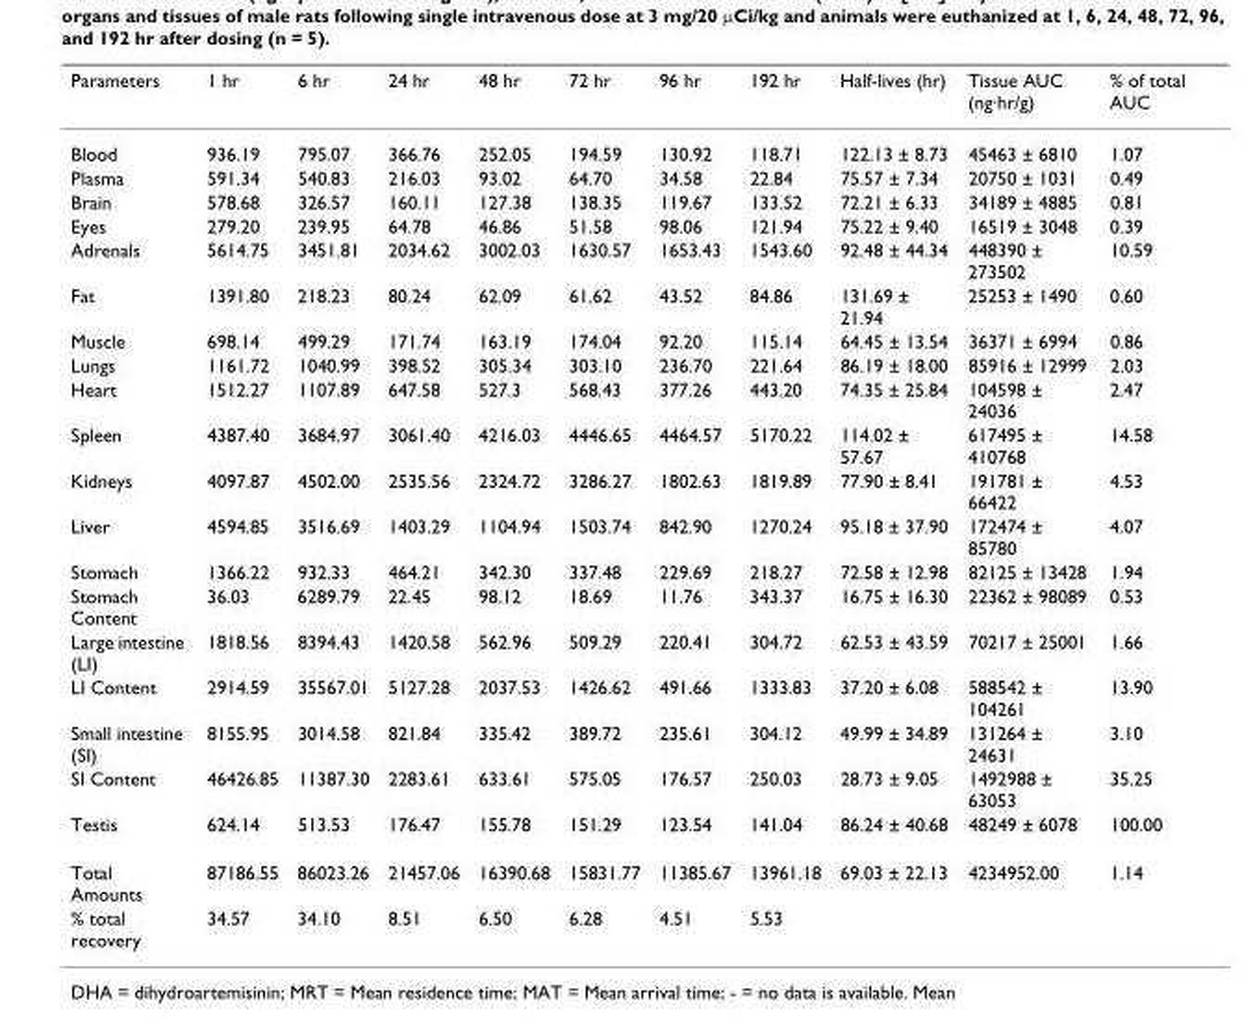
<table><thead><tr><td>Parameters</td><td>1 hr</td><td>6 hr</td><td>24 hr</td><td>48 hr</td><td>72 hr</td><td>96 hr</td><td>192 hr</td><td>Half-lives (hr)</td><td>Tissue AUC (ng·hr/g)</td><td>% of total AUC</td></tr></thead><tbody><tr><td>Blood</td><td>936.19</td><td>795.07</td><td>366.76</td><td>252.05</td><td>194.59</td><td>130.92</td><td>118.71</td><td>122.13 ± 8.73</td><td>45463 ± 6810</td><td>1.07</td></tr><tr><td>Plasma</td><td>591.34</td><td>540.83</td><td>216.03</td><td>93.02</td><td>64.70</td><td>34.58</td><td>22.84</td><td>75.57 ± 7.34</td><td>20750 ± 1031</td><td>0.49</td></tr><tr><td>Brain</td><td>578.68</td><td>326.57</td><td>160.11</td><td>127.38</td><td>138.35</td><td>119.67</td><td>133.52</td><td>72.21 ± 6.33</td><td>34189 ± 4885</td><td>0.81</td></tr><tr><td>Eyes</td><td>279.20</td><td>239.95</td><td>64.78</td><td>46.86</td><td>51.58</td><td>98.06</td><td>121.94</td><td>75.22 ± 9.40</td><td>16519 ± 3048</td><td>0.39</td></tr><tr><td>Adrenals</td><td>5614.75</td><td>3451.81</td><td>2034.62</td><td>3002.03</td><td>1630.57</td><td>1653.43</td><td>1543.60</td><td>92.48 ± 44.34</td><td>448390 ± 273502</td><td>10.59</td></tr><tr><td>Fat</td><td>1391.80</td><td>218.23</td><td>80.24</td><td>62.09</td><td>61.62</td><td>43.52</td><td>84.86</td><td>131.69 ± 21.94</td><td>25253 ± 1490</td><td>0.60</td></tr><tr><td>Muscle</td><td>698.14</td><td>499.29</td><td>171.74</td><td>163.19</td><td>174.04</td><td>92.20</td><td>115.14</td><td>64.45 ± 13.54</td><td>36371 ± 6994</td><td>0.86</td></tr><tr><td>Lungs</td><td>1161.72</td><td>1040.99</td><td>398.52</td><td>305.34</td><td>303.10</td><td>236.70</td><td>221.64</td><td>86.19 ± 18.00</td><td>85916 ± 12999</td><td>2.03</td></tr><tr><td>Heart</td><td>1512.27</td><td>1107.89</td><td>647.58</td><td>527.3</td><td>568.43</td><td>377.26</td><td>443.20</td><td>74.35 ± 25.84</td><td>104598 ± 24036</td><td>2.47</td></tr><tr><td>Spleen</td><td>4387.40</td><td>3684.97</td><td>3061.40</td><td>4216.03</td><td>4446.65</td><td>4464.57</td><td>5170.22</td><td>114.02 ± 57.67</td><td>617495 ± 410768</td><td>14.58</td></tr><tr><td>Kidneys</td><td>4097.87</td><td>4502.00</td><td>2535.56</td><td>2324.72</td><td>3286.27</td><td>1802.63</td><td>1819.89</td><td>77.90 ± 8.41</td><td>191781 ± 66422</td><td>4.53</td></tr><tr><td>Liver</td><td>4594.85</td><td>3516.69</td><td>1403.29</td><td>1104.94</td><td>1503.74</td><td>842.90</td><td>1270.24</td><td>95.18 ± 37.90</td><td>172474 ± 85780</td><td>4.07</td></tr><tr><td>Stomach</td><td>1366.22</td><td>932.33</td><td>464.21</td><td>342.30</td><td>337.48</td><td>229.69</td><td>218.27</td><td>72.58 ± 12.98</td><td>82125 ± 13428</td><td>1.94</td></tr><tr><td>Stomach Content</td><td>36.03</td><td>6289.79</td><td>22.45</td><td>98.12</td><td>18.69</td><td>11.76</td><td>343.37</td><td>16.75 ± 16.30</td><td>22362 ± 98089</td><td>0.53</td></tr><tr><td>Large intestine (LI)</td><td>1818.56</td><td>8394.43</td><td>1420.58</td><td>562.96</td><td>509.29</td><td>220.41</td><td>304.72</td><td>62.53 ± 43.59</td><td>70217 ± 25001</td><td>1.66</td></tr><tr><td>LI Content</td><td>2914.59</td><td>35567.01</td><td>5127.28</td><td>2037.53</td><td>1426.62</td><td>491.66</td><td>1333.83</td><td>37.20 ± 6.08</td><td>588542 ± 104261</td><td>13.90</td></tr><tr><td>Small intestine (SI)</td><td>8155.95</td><td>3014.58</td><td>821.84</td><td>335.42</td><td>389.72</td><td>235.61</td><td>304.12</td><td>49.99 ± 34.89</td><td>131264 ± 24631</td><td>3.10</td></tr><tr><td>SI Content</td><td>46426.85</td><td>11387.30</td><td>2283.61</td><td>633.61</td><td>575.05</td><td>176.57</td><td>250.03</td><td>28.73 ± 9.05</td><td>1492988 ± 63053</td><td>35.25</td></tr><tr><td>Testis</td><td>624.14</td><td>513.53</td><td>176.47</td><td>155.78</td><td>151.29</td><td>123.54</td><td>141.04</td><td>86.24 ± 40.68</td><td>48249 ± 6078</td><td>100.00</td></tr><tr><td>Total Amounts</td><td>87186.55</td><td>86023.26</td><td>21457.06</td><td>16390.68</td><td>15831.77</td><td>11385.67</td><td>13961.18</td><td>69.03 ± 22.13</td><td>4234952.00</td><td>1.14</td></tr><tr><td>% total recovery</td><td>34.57</td><td>34.10</td><td>8.51</td><td>6.50</td><td>6.28</td><td>4.51</td><td>5.53</td><td></td><td></td><td></td></tr></tbody></table>